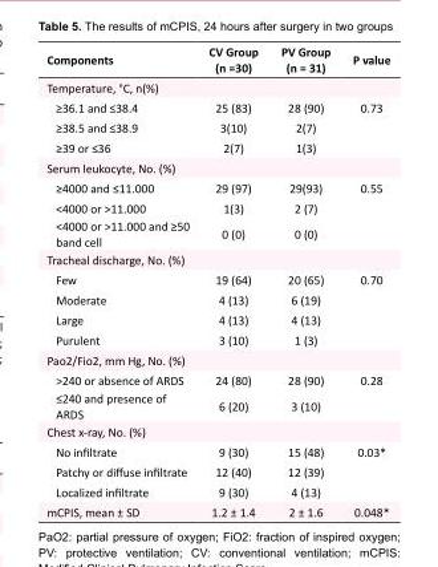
<table><tbody><tr><td>Components</td><td>CV Group (n =30)</td><td>PV Group (n = 31)</td><td>P value</td></tr><tr><td colspan="4">Temperature, °C, n(%)</td></tr><tr><td>≥36.1 and ≤38.4</td><td>25 (83)</td><td>28 (90)</td><td>0.73</td></tr><tr><td>≥38.5 and ≤38.9</td><td>3(10)</td><td>2(7)</td><td></td></tr><tr><td>≥39 or ≤36</td><td>2(7)</td><td>1(3)</td><td></td></tr><tr><td colspan="4">Serum leukocyte, No. (%)</td></tr><tr><td>≥4000 and ≤11.000</td><td>29 (97)</td><td>29(93)</td><td>0.55</td></tr><tr><td>&lt;4000 or &gt;11.000</td><td>1(3)</td><td>2 (7)</td><td></td></tr><tr><td>&lt;4000 or &gt;11.000 and ≥50 band cell</td><td>0 (0)</td><td>0 (0)</td><td></td></tr><tr><td colspan="4">Tracheal discharge, No. (%)</td></tr><tr><td>Few</td><td>19 (64)</td><td>20 (65)</td><td>0.70</td></tr><tr><td>Moderate</td><td>4 (13)</td><td>6 (19)</td><td></td></tr><tr><td>Large</td><td>4 (13)</td><td>4 (13)</td><td></td></tr><tr><td>Purulent</td><td>3 (10)</td><td>1 (3)</td><td></td></tr><tr><td colspan="4">Pao2/Fio2, mm Hg, No. (%)</td></tr><tr><td>&gt;240 or absence of ARDS</td><td>24 (80)</td><td>28 (90)</td><td>0.28</td></tr><tr><td>≤240 and presence of ARDS</td><td>6 (20)</td><td>3 (10)</td><td></td></tr><tr><td colspan="4">Chest x-ray, No. (%)</td></tr><tr><td>No infiltrate</td><td>9 (30)</td><td>15 (48)</td><td>0.03*</td></tr><tr><td>Patchy or diffuse infiltrate</td><td>12 (40)</td><td>12 (39)</td><td></td></tr><tr><td>Localized infiltrate</td><td>9 (30)</td><td>4 (13)</td><td></td></tr><tr><td>mCPIS, mean ± SD</td><td>1.2 ± 1.4</td><td>2 ± 1.6</td><td>0.048*</td></tr></tbody></table>